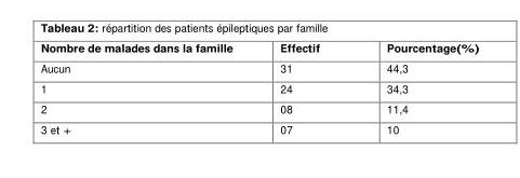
<table><thead><tr><td>Nombre de malades dans la famille</td><td>Effectif</td><td>Pourcentage(%)</td></tr></thead><tbody><tr><td>Aucun</td><td>31</td><td>44,3</td></tr><tr><td>1</td><td>24</td><td>34,3</td></tr><tr><td>2</td><td>08</td><td>11,4</td></tr><tr><td>3 et +</td><td>07</td><td>10</td></tr></tbody></table>